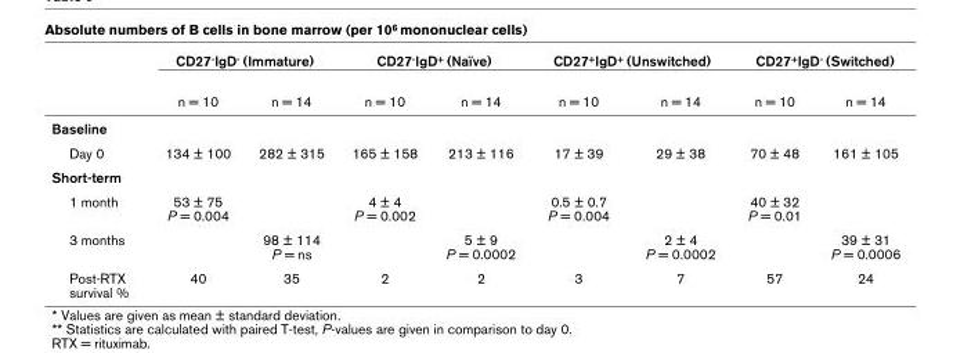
<table><thead><tr><td rowspan="2"></td><td colspan="2">CD27<sup>-</sup>IgD<sup>-</sup> (Immature)</td><td colspan="2">CD27<sup>-</sup>IgD<sup>+</sup> (Naïve)</td><td colspan="2">CD27<sup>+</sup>IgD<sup>+</sup> (Unswitched)</td><td colspan="2">CD27<sup>+</sup>IgD<sup>-</sup> (Switched)</td></tr><tr><td>n = 10</td><td>n = 14</td><td>n = 10</td><td>n = 14</td><td>n = 10</td><td>n = 14</td><td>n = 10</td><td>n = 14</td></tr></thead><tbody><tr><td colspan="9">Baseline</td></tr><tr><td>Day 0</td><td>134 ± 100</td><td>282 ± 315</td><td>165 ± 158</td><td>213 ± 116</td><td>17 ± 39</td><td>29 ± 38</td><td>70 ± 48</td><td>161 ± 105</td></tr><tr><td colspan="9">Short-term</td></tr><tr><td>1 month</td><td>53 ± 75 P = 0.004</td><td></td><td>4 ± 4 P = 0.002</td><td></td><td>0.5 ± 0.7 P = 0.004</td><td></td><td>40 ± 32 P = 0.01</td><td></td></tr><tr><td>3 months</td><td></td><td>98 ± 114 P = ns</td><td></td><td>5 ± 9 P = 0.0002</td><td></td><td>2 ± 4 P = 0.0002</td><td></td><td>39 ± 31 P = 0.0006</td></tr><tr><td>Post-RTX survival %</td><td>40</td><td>35</td><td>2</td><td>2</td><td>3</td><td>7</td><td>57</td><td>24</td></tr></tbody></table>